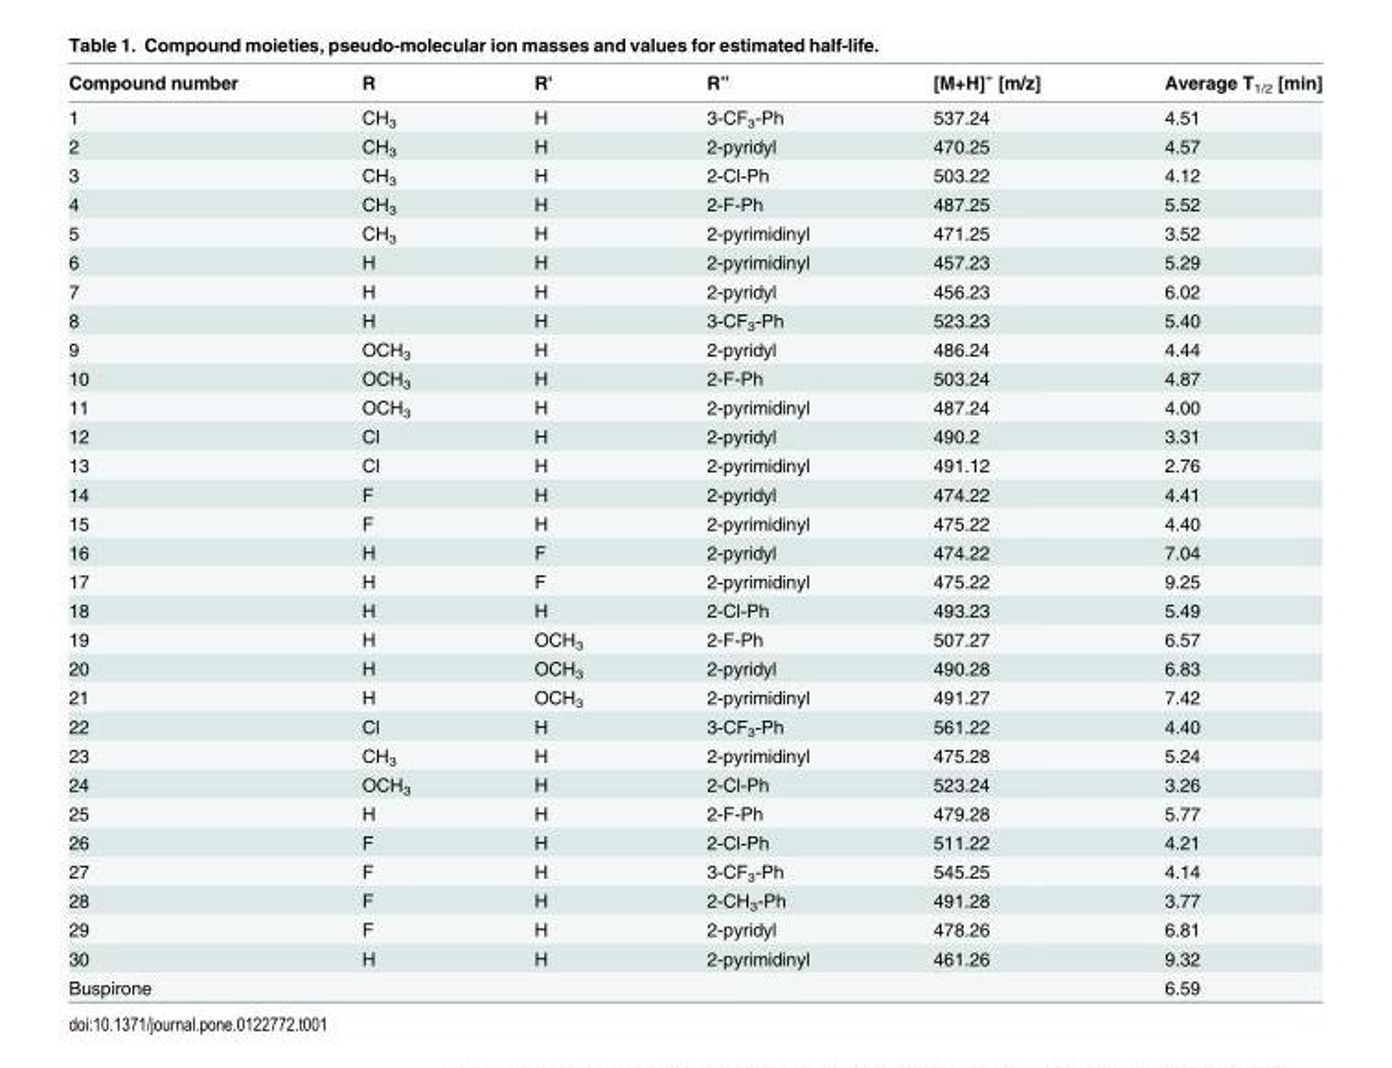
<table><thead><tr><td>Compound number</td><td>R</td><td>R&#x27;</td><td>R”</td><td>[M+H]<sup>+</sup> [m/z]</td><td>Average T<sub>1/2</sub> [min]</td></tr></thead><tbody><tr><td>1</td><td>CH<sub>3</sub></td><td>H</td><td>3-CF<sub>3</sub>-Ph</td><td>537.24</td><td>4.51</td></tr><tr><td>2</td><td>CH<sub>3</sub></td><td>H</td><td>2-pyridyl</td><td>470.25</td><td>4.57</td></tr><tr><td>3</td><td>CH<sub>3</sub></td><td>H</td><td>2-Cl-Ph</td><td>503.22</td><td>4.12</td></tr><tr><td>4</td><td>CH<sub>3</sub></td><td>H</td><td>2-F-Ph</td><td>487.25</td><td>5.52</td></tr><tr><td>5</td><td>CH<sub>3</sub></td><td>H</td><td>2-pyrimidinyl</td><td>471.25</td><td>3.52</td></tr><tr><td>6</td><td>H</td><td>H</td><td>2-pyrimidinyl</td><td>457.23</td><td>5.29</td></tr><tr><td>7</td><td>H</td><td>H</td><td>2-pyridyl</td><td>456.23</td><td>6.02</td></tr><tr><td>8</td><td>H</td><td>H</td><td>3-CF<sub>3</sub>-Ph</td><td>523.23</td><td>5.40</td></tr><tr><td>9</td><td>OCH<sub>3</sub></td><td>H</td><td>2-pyridyl</td><td>486.24</td><td>4.44</td></tr><tr><td>10</td><td>OCH<sub>3</sub></td><td>H</td><td>2-F-Ph</td><td>503.24</td><td>4.87</td></tr><tr><td>11</td><td>OCH<sub>3</sub></td><td>H</td><td>2-pyrimidinyl</td><td>487.24</td><td>4.00</td></tr><tr><td>12</td><td>Cl</td><td>H</td><td>2-pyridyl</td><td>490.2</td><td>3.31</td></tr><tr><td>13</td><td>Cl</td><td>H</td><td>2-pyrimidinyl</td><td>491.12</td><td>2.76</td></tr><tr><td>14</td><td>F</td><td>H</td><td>2-pyridyl</td><td>474.22</td><td>4.41</td></tr><tr><td>15</td><td>F</td><td>H</td><td>2-pyrimidinyl</td><td>475.22</td><td>4.40</td></tr><tr><td>16</td><td>H</td><td>F</td><td>2-pyridyl</td><td>474.22</td><td>7.04</td></tr><tr><td>17</td><td>H</td><td>F</td><td>2-pyrimidinyl</td><td>475.22</td><td>9.25</td></tr><tr><td>18</td><td>H</td><td>H</td><td>2-Cl-Ph</td><td>493.23</td><td>5.49</td></tr><tr><td>19</td><td>H</td><td>OCH<sub>3</sub></td><td>2-F-Ph</td><td>507.27</td><td>6.57</td></tr><tr><td>20</td><td>H</td><td>OCH<sub>3</sub></td><td>2-pyridyl</td><td>490.28</td><td>6.83</td></tr><tr><td>21</td><td>H</td><td>OCH<sub>3</sub></td><td>2-pyrimidinyl</td><td>491.27</td><td>7.42</td></tr><tr><td>22</td><td>Cl</td><td>H</td><td>3-CF<sub>3</sub>-Ph</td><td>561.22</td><td>4.40</td></tr><tr><td>23</td><td>CH<sub>3</sub></td><td>H</td><td>2-pyrimidinyl</td><td>475.28</td><td>5.24</td></tr><tr><td>24</td><td>OCH<sub>3</sub></td><td>H</td><td>2-Cl-Ph</td><td>523.24</td><td>3.26</td></tr><tr><td>25</td><td>H</td><td>H</td><td>2-F-Ph</td><td>479.28</td><td>5.77</td></tr><tr><td>26</td><td>F</td><td>H</td><td>2-Cl-Ph</td><td>511.22</td><td>4.21</td></tr><tr><td>27</td><td>F</td><td>H</td><td>3-CF<sub>3</sub>-Ph</td><td>545.25</td><td>4.14</td></tr><tr><td>28</td><td>F</td><td>H</td><td>2-CH<sub>3</sub>-Ph</td><td>491.28</td><td>3.77</td></tr><tr><td>29</td><td>F</td><td>H</td><td>2-pyridyl</td><td>478.26</td><td>6.81</td></tr><tr><td>30</td><td>H</td><td>H</td><td>2-pyrimidinyl</td><td>461.26</td><td>9.32</td></tr><tr><td>Buspirone</td><td></td><td></td><td></td><td></td><td>6.59</td></tr></tbody></table>